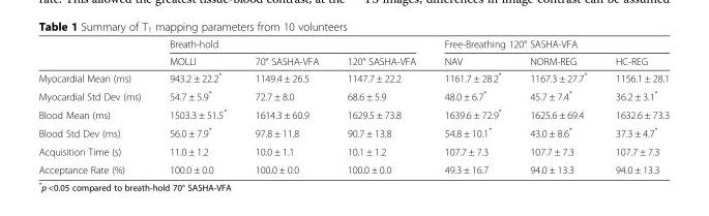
<table><thead><tr><td rowspan="2"></td><td colspan="3">Breath-hold</td><td colspan="3">Free-Breathing 120° SASHA-VFA</td></tr><tr><td>MOLLI</td><td>70° SASHA-VFA</td><td>120° SASHA-VFA</td><td>NAV</td><td>NORM-REG</td><td>HC-REG</td></tr></thead><tbody><tr><td>Myocardial Mean (ms)</td><td>943.2 ± 22.2*</td><td>1149.4 ± 26.5</td><td>1147.7 ± 22.2</td><td>1161.7 ± 28.2*</td><td>1167.3 ± 27.7*</td><td>1156.1 ± 28.1</td></tr><tr><td>Myocardial Std Dev (ms)</td><td>54.7 ± 5.9*</td><td>72.7 ± 8.0</td><td>68.6 ± 5.9</td><td>48.0 ± 6.7*</td><td>45.7 ± 7.4*</td><td>36.2 ± 3.1*</td></tr><tr><td>Blood Mean (ms)</td><td>1503.3 ± 51.5*</td><td>1614.3 ± 60.9</td><td>1629.5 ± 73.8</td><td>1639.6 ± 72.9*</td><td>1625.6 ± 69.4</td><td>1632.6 ± 73.3</td></tr><tr><td>Blood Std Dev (ms)</td><td>56.0 ± 7.9*</td><td>97.8 ± 11.8</td><td>90.7 ± 13.8</td><td>54.8 ± 10.1*</td><td>43.0 ± 8.6*</td><td>37.3 ± 4.7*</td></tr><tr><td>Acquisition Time (s)</td><td>11.0 ± 1.2</td><td>10.0 ± 1.1</td><td>10.1 ± 1.2</td><td>107.7 ± 7.3</td><td>107.7 ± 7.3</td><td>107.7 ± 7.3</td></tr><tr><td>Acceptance Rate (%)</td><td>100.0 ± 0.0</td><td>100.0 ± 0.0</td><td>100.0 ± 0.0</td><td>49.3 ± 16.7</td><td>94.0 ± 13.3</td><td>94.0 ± 13.3</td></tr></tbody></table>